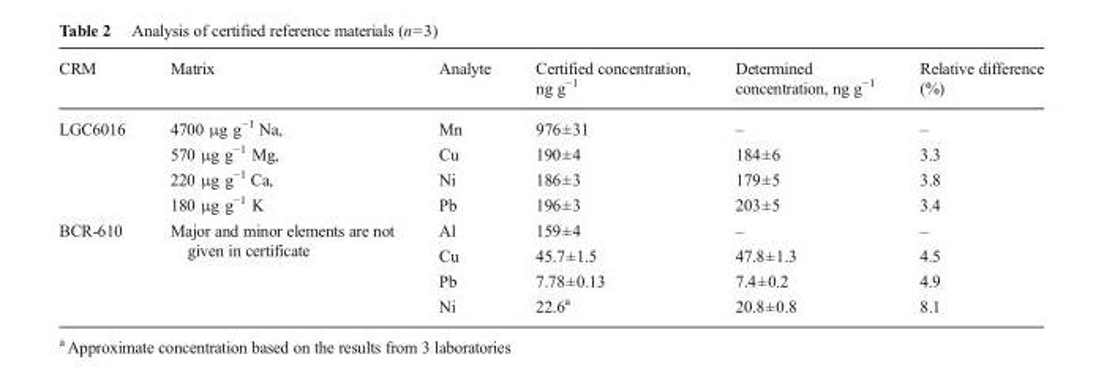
<table><thead><tr><td>CRM</td><td>Matrix</td><td>Analyte</td><td>Certified concentration, ng g<sup>−1</sup></td><td>Determined concentration, ng g<sup>−1</sup></td><td>Relative difference (%)</td></tr></thead><tbody><tr><td rowspan="4">LGC6016</td><td>4700 μg g<sup>−1</sup> Na,</td><td>Mn</td><td>976±31</td><td>–</td><td>–</td></tr><tr><td>570 μg g<sup>−1</sup> Mg,</td><td>Cu</td><td>190±4</td><td>184±6</td><td>3.3</td></tr><tr><td>220 μg g<sup>−1</sup> Ca,</td><td>Ni</td><td>186±3</td><td>179±5</td><td>3.8</td></tr><tr><td>180 μg g<sup>−1</sup> K</td><td>Pb</td><td>196±3</td><td>203±5</td><td>3.4</td></tr><tr><td rowspan="4">BCR-610</td><td rowspan="4">Major and minor elements are not given in certificate</td><td>Al</td><td>159±4</td><td>–</td><td>–</td></tr><tr><td>Cu</td><td>45.7±1.5</td><td>47.8±1.3</td><td>4.5</td></tr><tr><td>Pb</td><td>7.78±0.13</td><td>7.4±0.2</td><td>4.9</td></tr><tr><td>Ni</td><td>22.6<sup>a</sup></td><td>20.8±0.8</td><td>8.1</td></tr></tbody></table>